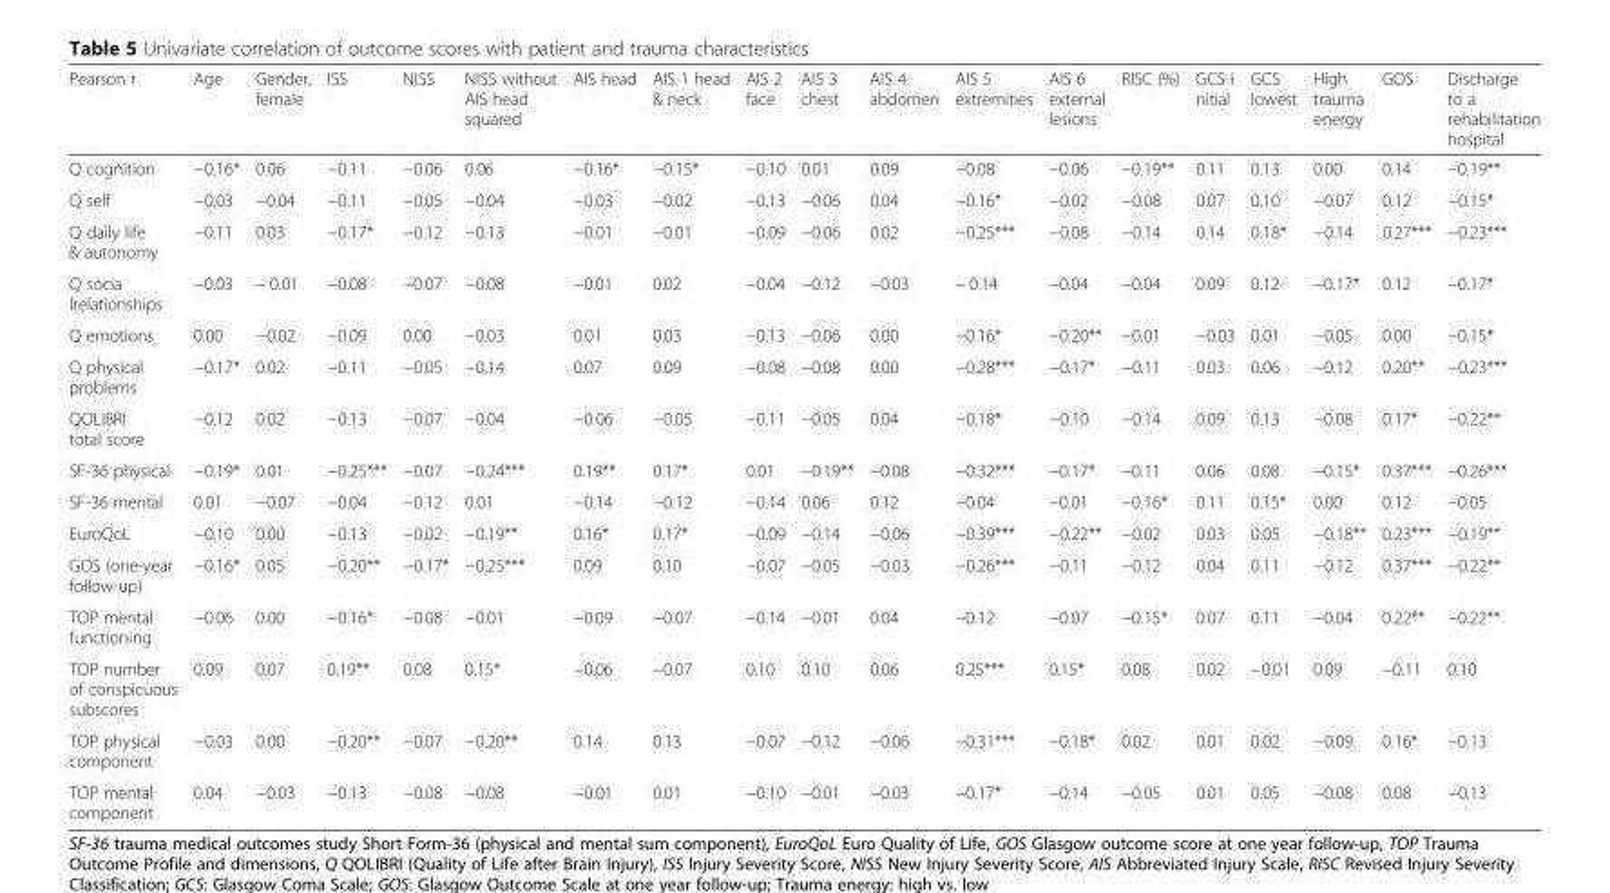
<table><thead><tr><td>Pearson r</td><td>Age</td><td>Gender, female</td><td>ISS</td><td>NISS</td><td>NISS without AIS head squared</td><td>AIS head</td><td>AIS 1 head &amp; neck</td><td>AIS 2 face</td><td>AIS 3 chest</td><td>AIS 4 abdomen</td><td>AIS 5 extremities</td><td>AIS 6 external lesions</td><td>RISC (%)</td><td>GCS i nitial</td><td>GCS lowest</td><td>High trauma energy</td><td>GOS</td><td>Discharge to a rehabilitation hospital</td></tr></thead><tbody><tr><td>Q cognition</td><td>−0.16*</td><td>0.06</td><td>−0.11</td><td>−0.06</td><td>0.06</td><td>−0.16*</td><td>−0.15*</td><td>−0.10</td><td>0.01</td><td>0.09</td><td>−0.08</td><td>−0.06</td><td>−0.19**</td><td>0.11</td><td>0.13</td><td>0.00</td><td>0.14</td><td>−0.19**</td></tr><tr><td>Q self</td><td>−0.03</td><td>−0.04</td><td>−0.11</td><td>−0.05</td><td>−0.04</td><td>−0.03</td><td>−0.02</td><td>−0.13</td><td>−0.06</td><td>0.04</td><td>−0.16*</td><td>−0.02</td><td>−0.08</td><td>0.07</td><td>0.10</td><td>−0.07</td><td>0.12</td><td>−0.15*</td></tr><tr><td>Q daily life &amp; autonomy</td><td>−0.11</td><td>0.03</td><td>−0.17*</td><td>−0.12</td><td>−0.13</td><td>−0.01</td><td>−0.01</td><td>−0.09</td><td>−0.06</td><td>0.02</td><td>−0.25***</td><td>−0.08</td><td>−0.14</td><td>0.14</td><td>0.18*</td><td>−0.14</td><td>0.27***</td><td>−0.23***</td></tr><tr><td>Q socia lrelationships</td><td>−0.03</td><td>− 0.01</td><td>−0.08</td><td>−0.07</td><td>−0.08</td><td>−0.01</td><td>0.02</td><td>−0.04</td><td>−0.12</td><td>−0.03</td><td>− 0.14</td><td>−0.04</td><td>−0.04</td><td>0.09</td><td>0.12</td><td>−0.17*</td><td>0.12</td><td>−0.17*</td></tr><tr><td>Q emotions</td><td>0.00</td><td>−0.02</td><td>−0.09</td><td>0.00</td><td>−0.03</td><td>0.01</td><td>0.03</td><td>−0.13</td><td>−0.06</td><td>0.00</td><td>−0.16*</td><td>−0.20**</td><td>−0.01</td><td>−0.03</td><td>0.01</td><td>−0.05</td><td>0.00</td><td>−0.15*</td></tr><tr><td>Q physical problems</td><td>−0.17*</td><td>0.02</td><td>−0.11</td><td>−0.05</td><td>−0.14</td><td>0.07</td><td>0.09</td><td>−0.08</td><td>−0.08</td><td>0.00</td><td>−0.28***</td><td>−0.17*</td><td>−0.11</td><td>0.03</td><td>0.06</td><td>−0.12</td><td>0.20**</td><td>−0.23***</td></tr><tr><td>QOLIBRI total score</td><td>−0.12</td><td>0.02</td><td>−0.13</td><td>−0.07</td><td>−0.04</td><td>−0.06</td><td>−0.05</td><td>−0.11</td><td>−0.05</td><td>0.04</td><td>−0.18*</td><td>−0.10</td><td>−0.14</td><td>0.09</td><td>0.13</td><td>−0.08</td><td>0.17*</td><td>−0.22**</td></tr><tr><td>SF-36 physical</td><td>−0.19*</td><td>0.01</td><td>−0.25***</td><td>−0.07</td><td>−0.24***</td><td>0.19**</td><td>0.17*</td><td>0.01</td><td>−0.19**</td><td>−0.08</td><td>−0.32***</td><td>−0.17*</td><td>−0.11</td><td>0.06</td><td>0.08</td><td>−0.15*</td><td>0.37***</td><td>−0.26***</td></tr><tr><td>SF-36 mental</td><td>0.01</td><td>−0.07</td><td>−0.04</td><td>−0.12</td><td>0.01</td><td>−0.14</td><td>−0.12</td><td>−0.14</td><td>0.06</td><td>0.12</td><td>−0.04</td><td>−0.01</td><td>−0.16*</td><td>0.11</td><td>0.15*</td><td>0.00</td><td>0.12</td><td>−0.05</td></tr><tr><td>EuroQoL</td><td>−0.10</td><td>0.00</td><td>−0.13</td><td>−0.02</td><td>−0.19**</td><td>0.16*</td><td>0.17*</td><td>−0.09</td><td>−0.14</td><td>−0.06</td><td>−0.39***</td><td>−0.22**</td><td>−0.02</td><td>0.03</td><td>0.05</td><td>−0.18**</td><td>0.23***</td><td>−0.19**</td></tr><tr><td>GOS (one-year follow-up)</td><td>−0.16*</td><td>0.05</td><td>−0.20**</td><td>−0.17*</td><td>−0.25***</td><td>0.09</td><td>0.10</td><td>−0.07</td><td>−0.05</td><td>−0.03</td><td>−0.26***</td><td>−0.11</td><td>−0.12</td><td>0.04</td><td>0.11</td><td>−0.12</td><td>0.37***</td><td>−0.22**</td></tr><tr><td>TOP mental functioning</td><td>−0.06</td><td>0.00</td><td>−0.16*</td><td>−0.08</td><td>−0.01</td><td>−0.09</td><td>−0.07</td><td>−0.14</td><td>−0.01</td><td>0.04</td><td>−0.12</td><td>−0.07</td><td>−0.15*</td><td>0.07</td><td>0.11</td><td>−0.04</td><td>0.22**</td><td>−0.22**</td></tr><tr><td>TOP number of conspicuous subscores</td><td>0.09</td><td>0.07</td><td>0.19**</td><td>0.08</td><td>0.15*</td><td>−0.06</td><td>−0.07</td><td>0.10</td><td>0.10</td><td>0.06</td><td>0.25***</td><td>0.15*</td><td>0.08</td><td>0.02</td><td>−0.01</td><td>0.09</td><td>−0.11</td><td>0.10</td></tr><tr><td>TOP physical component</td><td>−0.03</td><td>0.00</td><td>−0.20**</td><td>−0.07</td><td>−0.20**</td><td>0.14</td><td>0.13</td><td>−0.07</td><td>−0.12</td><td>−0.06</td><td>−0.31***</td><td>−0.18*</td><td>0.02</td><td>0.01</td><td>0.02</td><td>−0.09</td><td>0.16*</td><td>−0.13</td></tr><tr><td>TOP mental component</td><td>0.04</td><td>−0.03</td><td>−0.13</td><td>−0.08</td><td>−0.08</td><td>−0.01</td><td>0.01</td><td>−0.10</td><td>−0.01</td><td>−0.03</td><td>−0.17*</td><td>−0.14</td><td>−0.05</td><td>0.01</td><td>0.05</td><td>−0.08</td><td>0.08</td><td>−0.13</td></tr></tbody></table>